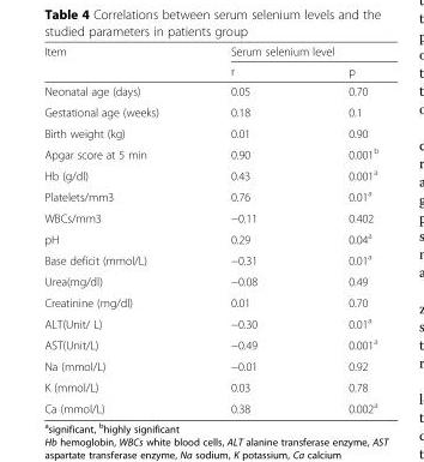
<table><thead><tr><td rowspan="2">Item</td><td colspan="2">Serum selenium level</td></tr><tr><td>r</td><td>p</td></tr></thead><tbody><tr><td>Neonatal age (days)</td><td>0.05</td><td>0.70</td></tr><tr><td>Gestational age (weeks)</td><td>0.18</td><td>0.1</td></tr><tr><td>Birth weight (kg)</td><td>0.01</td><td>0.90</td></tr><tr><td>Apgar score at 5 min</td><td>0.90</td><td>0.001<sup>b</sup></td></tr><tr><td>Hb (g/dl)</td><td>0.43</td><td>0.001<sup>a</sup></td></tr><tr><td>Platelets/mm3</td><td>0.76</td><td>0.01<sup>a</sup></td></tr><tr><td>WBCs/mm3</td><td>−0.11</td><td>0.402</td></tr><tr><td>pH</td><td>0.29</td><td>0.04<sup>a</sup></td></tr><tr><td>Base deficit (mmol/L)</td><td>−0.31</td><td>0.01<sup>a</sup></td></tr><tr><td>Urea(mg/dl)</td><td>−0.08</td><td>0.49</td></tr><tr><td>Creatinine (mg/dl)</td><td>0.01</td><td>0.70</td></tr><tr><td>ALT(Unit/ L)</td><td>−0.30</td><td>0.01<sup>a</sup></td></tr><tr><td>AST(Unit/L)</td><td>−0.49</td><td>0.001<sup>a</sup></td></tr><tr><td>Na (mmol/L)</td><td>−0.01</td><td>0.92</td></tr><tr><td>K (mmol/L)</td><td>0.03</td><td>0.78</td></tr><tr><td>Ca (mmol/L)</td><td>0.38</td><td>0.002<sup>a</sup></td></tr></tbody></table>